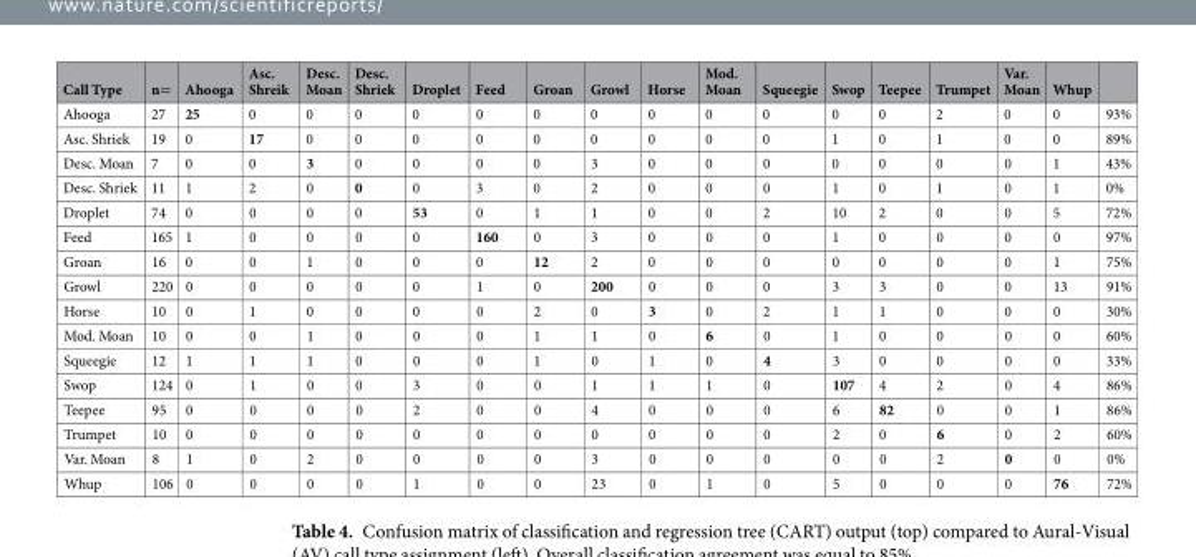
<table><thead><tr><td>Call Type</td><td>n=</td><td>Ahooga</td><td>Asc. Shreik</td><td>Desc. Moan</td><td>Desc. Shriek</td><td>Droplet</td><td>Feed</td><td>Groan</td><td>Growl</td><td>Horse</td><td>Mod. Moan</td><td>Squeegie</td><td>Swop</td><td>Teepee</td><td>Trumpet</td><td>Var. Moan</td><td>Whup</td><td></td></tr></thead><tbody><tr><td>Ahooga</td><td>27</td><td>25</td><td>0</td><td>0</td><td>0</td><td>0</td><td>0</td><td>0</td><td>0</td><td>0</td><td>0</td><td>0</td><td>0</td><td>0</td><td>2</td><td>0</td><td>0</td><td>93%</td></tr><tr><td>Asc. Shriek</td><td>19</td><td>0</td><td>17</td><td>0</td><td>0</td><td>0</td><td>0</td><td>0</td><td>0</td><td>0</td><td>0</td><td>0</td><td>1</td><td>0</td><td>1</td><td>0</td><td>0</td><td>89%</td></tr><tr><td>Desc. Moan</td><td>7</td><td>0</td><td>0</td><td>3</td><td>0</td><td>0</td><td>0</td><td>0</td><td>3</td><td>0</td><td>0</td><td>0</td><td>0</td><td>0</td><td>0</td><td>0</td><td>1</td><td>43%</td></tr><tr><td>Desc. Shriek</td><td>11</td><td>1</td><td>2</td><td>0</td><td>0</td><td>0</td><td>3</td><td>0</td><td>2</td><td>0</td><td>0</td><td>0</td><td>1</td><td>0</td><td>1</td><td>0</td><td>1</td><td>0%</td></tr><tr><td>Droplet</td><td>74</td><td>0</td><td>0</td><td>0</td><td>0</td><td>53</td><td>0</td><td>1</td><td>1</td><td>0</td><td>0</td><td>2</td><td>10</td><td>2</td><td>0</td><td>0</td><td>5</td><td>72%</td></tr><tr><td>Feed</td><td>165</td><td>1</td><td>0</td><td>0</td><td>0</td><td>0</td><td>160</td><td>0</td><td>3</td><td>0</td><td>0</td><td>0</td><td>1</td><td>0</td><td>0</td><td>0</td><td>0</td><td>97%</td></tr><tr><td>Groan</td><td>16</td><td>0</td><td>0</td><td>1</td><td>0</td><td>0</td><td>0</td><td>12</td><td>2</td><td>0</td><td>0</td><td>0</td><td>0</td><td>0</td><td>0</td><td>0</td><td>1</td><td>75%</td></tr><tr><td>Growl</td><td>220</td><td>0</td><td>0</td><td>0</td><td>0</td><td>0</td><td>1</td><td>0</td><td>200</td><td>0</td><td>0</td><td>0</td><td>3</td><td>3</td><td>0</td><td>0</td><td>13</td><td>91%</td></tr><tr><td>Horse</td><td>10</td><td>0</td><td>1</td><td>0</td><td>0</td><td>0</td><td>0</td><td>2</td><td>0</td><td>3</td><td>0</td><td>2</td><td>1</td><td>1</td><td>0</td><td>0</td><td>0</td><td>30%</td></tr><tr><td>Mod. Moan</td><td>10</td><td>0</td><td>0</td><td>1</td><td>0</td><td>0</td><td>0</td><td>1</td><td>1</td><td>0</td><td>6</td><td>0</td><td>1</td><td>0</td><td>0</td><td>0</td><td>0</td><td>60%</td></tr><tr><td>Squeegie</td><td>12</td><td>1</td><td>1</td><td>1</td><td>0</td><td>0</td><td>0</td><td>1</td><td>0</td><td>1</td><td>0</td><td>4</td><td>3</td><td>0</td><td>0</td><td>0</td><td>0</td><td>33%</td></tr><tr><td>Swop</td><td>124</td><td>0</td><td>1</td><td>0</td><td>0</td><td>3</td><td>0</td><td>0</td><td>1</td><td>1</td><td>1</td><td>0</td><td>107</td><td>4</td><td>2</td><td>0</td><td>4</td><td>86%</td></tr><tr><td>Teepee</td><td>95</td><td>0</td><td>0</td><td>0</td><td>0</td><td>2</td><td>0</td><td>0</td><td>4</td><td>0</td><td>0</td><td>0</td><td>6</td><td>82</td><td>0</td><td>0</td><td>1</td><td>86%</td></tr><tr><td>Trumpet</td><td>10</td><td>0</td><td>0</td><td>0</td><td>0</td><td>0</td><td>0</td><td>0</td><td>0</td><td>0</td><td>0</td><td>0</td><td>2</td><td>0</td><td>6</td><td>0</td><td>2</td><td>60%</td></tr><tr><td>Var. Moan</td><td>8</td><td>1</td><td>0</td><td>2</td><td>0</td><td>0</td><td>0</td><td>0</td><td>3</td><td>0</td><td>0</td><td>0</td><td>0</td><td>0</td><td>2</td><td>0</td><td>0</td><td>0%</td></tr><tr><td>Whup</td><td>106</td><td>0</td><td>0</td><td>0</td><td>0</td><td>1</td><td>0</td><td>0</td><td>23</td><td>0</td><td>1</td><td>0</td><td>5</td><td>0</td><td>0</td><td>0</td><td>76</td><td>72%</td></tr></tbody></table>